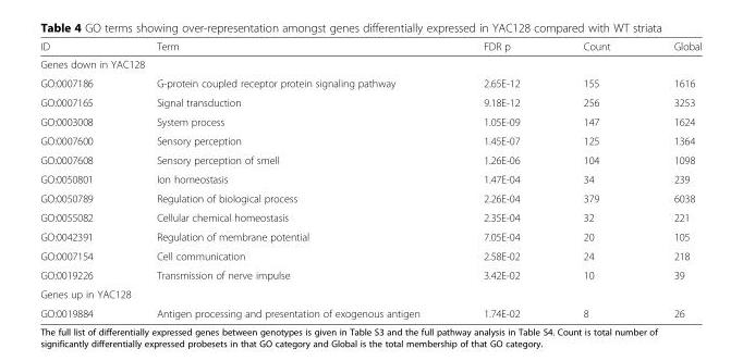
<table><thead><tr><td>ID</td><td>Term</td><td>FDR p</td><td>Count</td><td>Global</td></tr></thead><tbody><tr><td colspan="5">Genes down in YAC128</td></tr><tr><td>GO:0007186</td><td>G-protein coupled receptor protein signaling pathway</td><td>2.65E-12</td><td>155</td><td>1616</td></tr><tr><td>GO:0007165</td><td>Signal transduction</td><td>9.18E-12</td><td>256</td><td>3253</td></tr><tr><td>GO:0003008</td><td>System process</td><td>1.05E-09</td><td>147</td><td>1624</td></tr><tr><td>GO:0007600</td><td>Sensory perception</td><td>1.45E-07</td><td>125</td><td>1364</td></tr><tr><td>GO:0007608</td><td>Sensory perception of smell</td><td>1.26E-06</td><td>104</td><td>1098</td></tr><tr><td>GO:0050801</td><td>Ion homeostasis</td><td>1.47E-04</td><td>34</td><td>239</td></tr><tr><td>GO:0050789</td><td>Regulation of biological process</td><td>2.26E-04</td><td>379</td><td>6038</td></tr><tr><td>GO:0055082</td><td>Cellular chemical homeostasis</td><td>2.35E-04</td><td>32</td><td>221</td></tr><tr><td>GO:0042391</td><td>Regulation of membrane potential</td><td>7.05E-04</td><td>20</td><td>105</td></tr><tr><td>GO:0007154</td><td>Cell communication</td><td>2.58E-02</td><td>24</td><td>218</td></tr><tr><td>GO:0019226</td><td>Transmission of nerve impulse</td><td>3.42E-02</td><td>10</td><td>39</td></tr><tr><td colspan="5">Genes up in YAC128</td></tr><tr><td>GO:0019884</td><td>Antigen processing and presentation of exogenous antigen</td><td>1.74E-02</td><td>8</td><td>26</td></tr></tbody></table>